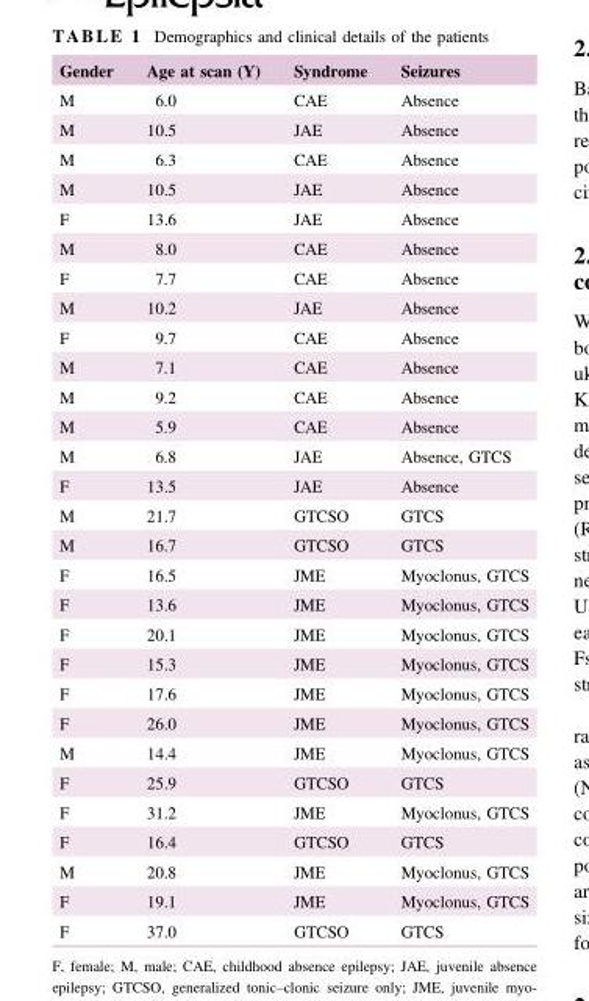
<table><thead><tr><td>Gender</td><td>Age at scan (Y)</td><td>Syndrome</td><td>Seizures</td></tr></thead><tbody><tr><td>M</td><td>6.0</td><td>CAE</td><td>Absence</td></tr><tr><td>M</td><td>10.5</td><td>JAE</td><td>Absence</td></tr><tr><td>M</td><td>6.3</td><td>CAE</td><td>Absence</td></tr><tr><td>M</td><td>10.5</td><td>JAE</td><td>Absence</td></tr><tr><td>F</td><td>13.6</td><td>JAE</td><td>Absence</td></tr><tr><td>M</td><td>8.0</td><td>CAE</td><td>Absence</td></tr><tr><td>F</td><td>7.7</td><td>CAE</td><td>Absence</td></tr><tr><td>M</td><td>10.2</td><td>JAE</td><td>Absence</td></tr><tr><td>F</td><td>9.7</td><td>CAE</td><td>Absence</td></tr><tr><td>M</td><td>7.1</td><td>CAE</td><td>Absence</td></tr><tr><td>M</td><td>9.2</td><td>CAE</td><td>Absence</td></tr><tr><td>M</td><td>5.9</td><td>CAE</td><td>Absence</td></tr><tr><td>M</td><td>6.8</td><td>JAE</td><td>Absence, GTCS</td></tr><tr><td>F</td><td>13.5</td><td>JAE</td><td>Absence</td></tr><tr><td>M</td><td>21.7</td><td>GTCSO</td><td>GTCS</td></tr><tr><td>M</td><td>16.7</td><td>GTCSO</td><td>GTCS</td></tr><tr><td>F</td><td>16.5</td><td>JME</td><td>Myoclonus, GTCS</td></tr><tr><td>F</td><td>13.6</td><td>JME</td><td>Myoclonus, GTCS</td></tr><tr><td>F</td><td>20.1</td><td>JME</td><td>Myoclonus, GTCS</td></tr><tr><td>F</td><td>15.3</td><td>JME</td><td>Myoclonus, GTCS</td></tr><tr><td>F</td><td>17.6</td><td>JME</td><td>Myoclonus, GTCS</td></tr><tr><td>F</td><td>26.0</td><td>JME</td><td>Myoclonus, GTCS</td></tr><tr><td>M</td><td>14.4</td><td>JME</td><td>Myoclonus, GTCS</td></tr><tr><td>F</td><td>25.9</td><td>GTCSO</td><td>GTCS</td></tr><tr><td>F</td><td>31.2</td><td>JME</td><td>Myoclonus, GTCS</td></tr><tr><td>F</td><td>16.4</td><td>GTCSO</td><td>GTCS</td></tr><tr><td>M</td><td>20.8</td><td>JME</td><td>Myoclonus, GTCS</td></tr><tr><td>F</td><td>19.1</td><td>JME</td><td>Myoclonus, GTCS</td></tr><tr><td>F</td><td>37.0</td><td>GTCSO</td><td>GTCS</td></tr></tbody></table>